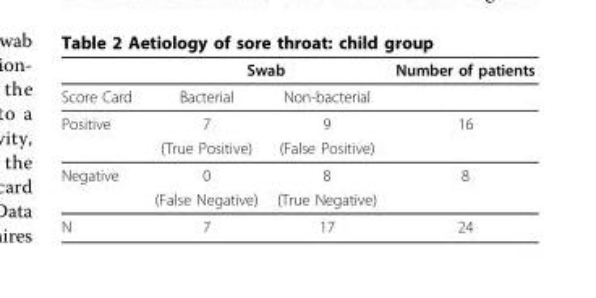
<table><thead><tr><td rowspan="2">Score Card</td><td colspan="2">Swab</td><td rowspan="2">Number of patients</td></tr><tr><td>Bacterial</td><td>Non-bacterial</td></tr></thead><tbody><tr><td rowspan="2">Positive</td><td>7</td><td>9</td><td>16</td></tr><tr><td>(True Positive)</td><td>(False Positive)</td><td></td></tr><tr><td rowspan="2">Negative</td><td>0</td><td>8</td><td>8</td></tr><tr><td>(False Negative)</td><td>(True Negative)</td><td></td></tr><tr><td>N</td><td>7</td><td>17</td><td>24</td></tr></tbody></table>